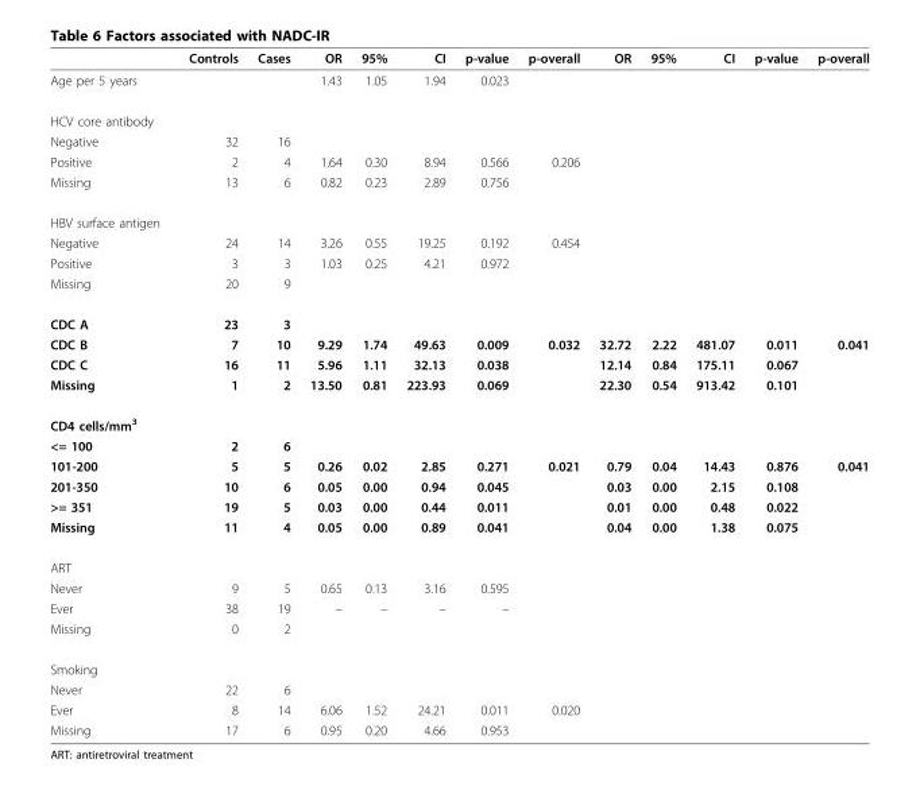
<table><thead><tr><td></td><td>Controls</td><td>Cases</td><td>OR</td><td>95%</td><td>CI</td><td>p-value</td><td>p-overall</td><td>OR</td><td>95%</td><td>CI</td><td>p-value</td><td>p-overall</td></tr></thead><tbody><tr><td>Age per 5 years</td><td></td><td></td><td>1.43</td><td>1.05</td><td>1.94</td><td>0.023</td><td></td><td></td><td></td><td></td><td></td><td></td></tr><tr><td colspan="13">HCV core antibody</td></tr><tr><td>Negative</td><td>32</td><td>16</td><td></td><td></td><td></td><td></td><td></td><td></td><td></td><td></td><td></td><td></td></tr><tr><td>Positive</td><td>2</td><td>4</td><td>1.64</td><td>0.30</td><td>8.94</td><td>0.566</td><td>0.206</td><td></td><td></td><td></td><td></td><td></td></tr><tr><td>Missing</td><td>13</td><td>6</td><td>0.82</td><td>0.23</td><td>2.89</td><td>0.756</td><td></td><td></td><td></td><td></td><td></td><td></td></tr><tr><td colspan="13">HBV surface antigen</td></tr><tr><td>Negative</td><td>24</td><td>14</td><td>3.26</td><td>0.55</td><td>19.25</td><td>0.192</td><td>0.454</td><td></td><td></td><td></td><td></td><td></td></tr><tr><td>Positive</td><td>3</td><td>3</td><td>1.03</td><td>0.25</td><td>4.21</td><td>0.972</td><td></td><td></td><td></td><td></td><td></td><td></td></tr><tr><td>Missing</td><td>20</td><td>9</td><td></td><td></td><td></td><td></td><td></td><td></td><td></td><td></td><td></td><td></td></tr><tr><td>CDC A</td><td>23</td><td>3</td><td></td><td></td><td></td><td></td><td></td><td></td><td></td><td></td><td></td><td></td></tr><tr><td>CDC B</td><td>7</td><td>10</td><td>9.29</td><td>1.74</td><td>49.63</td><td>0.009</td><td>0.032</td><td>32.72</td><td>2.22</td><td>481.07</td><td>0.011</td><td>0.041</td></tr><tr><td>CDC C</td><td>16</td><td>11</td><td>5.96</td><td>1.11</td><td>32.13</td><td>0.038</td><td></td><td>12.14</td><td>0.84</td><td>175.11</td><td>0.067</td><td></td></tr><tr><td>Missing</td><td>1</td><td>2</td><td>13.50</td><td>0.81</td><td>223.93</td><td>0.069</td><td></td><td>22.30</td><td>0.54</td><td>913.42</td><td>0.101</td><td></td></tr><tr><td colspan="13">CD4 cells/mm<sup>3</sup></td></tr><tr><td>&lt;= 100</td><td>2</td><td>6</td><td></td><td></td><td></td><td></td><td></td><td></td><td></td><td></td><td></td><td></td></tr><tr><td>101-200</td><td>5</td><td>5</td><td>0.26</td><td>0.02</td><td>2.85</td><td>0.271</td><td>0.021</td><td>0.79</td><td>0.04</td><td>14.43</td><td>0.876</td><td>0.041</td></tr><tr><td>201-350</td><td>10</td><td>6</td><td>0.05</td><td>0.00</td><td>0.94</td><td>0.045</td><td></td><td>0.03</td><td>0.00</td><td>2.15</td><td>0.108</td><td></td></tr><tr><td>&gt;= 351</td><td>19</td><td>5</td><td>0.03</td><td>0.00</td><td>0.44</td><td>0.011</td><td></td><td>0.01</td><td>0.00</td><td>0.48</td><td>0.022</td><td></td></tr><tr><td>Missing</td><td>11</td><td>4</td><td>0.05</td><td>0.00</td><td>0.89</td><td>0.041</td><td></td><td>0.04</td><td>0.00</td><td>1.38</td><td>0.075</td><td></td></tr><tr><td colspan="13">ART</td></tr><tr><td>Never</td><td>9</td><td>5</td><td>0.65</td><td>0.13</td><td>3.16</td><td>0.595</td><td></td><td></td><td></td><td></td><td></td><td></td></tr><tr><td>Ever</td><td>38</td><td>19</td><td>–</td><td>–</td><td>–</td><td>–</td><td></td><td></td><td></td><td></td><td></td><td></td></tr><tr><td>Missing</td><td>0</td><td>2</td><td></td><td></td><td></td><td></td><td></td><td></td><td></td><td></td><td></td><td></td></tr><tr><td colspan="13">Smoking</td></tr><tr><td>Never</td><td>22</td><td>6</td><td></td><td></td><td></td><td></td><td></td><td></td><td></td><td></td><td></td><td></td></tr><tr><td>Ever</td><td>8</td><td>14</td><td>6.06</td><td>1.52</td><td>24.21</td><td>0.011</td><td>0.020</td><td></td><td></td><td></td><td></td><td></td></tr><tr><td>Missing</td><td>17</td><td>6</td><td>0.95</td><td>0.20</td><td>4.66</td><td>0.953</td><td></td><td></td><td></td><td></td><td></td><td></td></tr></tbody></table>